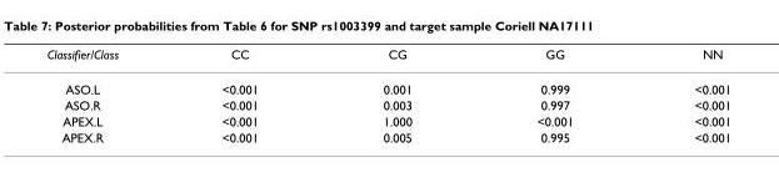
<table><thead><tr><td>Classifier/Class</td><td>CC</td><td>CG</td><td>GG</td><td>NN</td></tr></thead><tbody><tr><td>ASO.L</td><td>&lt;0.001</td><td>0.001</td><td>0.999</td><td>&lt;0.001</td></tr><tr><td>ASO.R</td><td>&lt;0.001</td><td>0.003</td><td>0.997</td><td>&lt;0.001</td></tr><tr><td>APEX.L</td><td>&lt;0.001</td><td>1.000</td><td>&lt;0.001</td><td>&lt;0.001</td></tr><tr><td>APEX.R</td><td>&lt;0.001</td><td>0.005</td><td>0.995</td><td>&lt;0.001</td></tr></tbody></table>